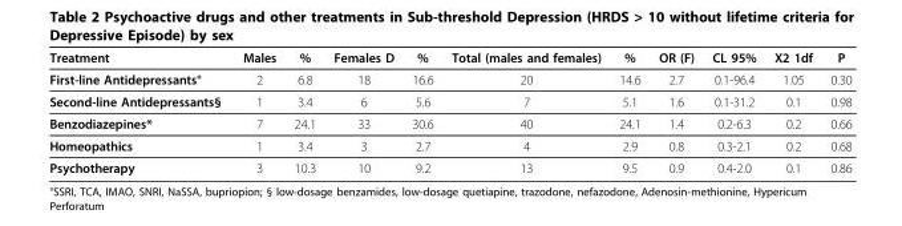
<table><thead><tr><td>Treatment</td><td>Males</td><td>%</td><td>Females D</td><td>%</td><td>Total (males and females)</td><td>%</td><td>OR (F)</td><td>CL 95%</td><td>Χ2 1df</td><td>P</td></tr></thead><tbody><tr><td>First-line Antidepressants°</td><td>2</td><td>6.8</td><td>18</td><td>16.6</td><td>20</td><td>14.6</td><td>2.7</td><td>0.1-96.4</td><td>1.05</td><td>0.30</td></tr><tr><td>Second-line Antidepressants§</td><td>1</td><td>3.4</td><td>6</td><td>5.6</td><td>7</td><td>5.1</td><td>1.6</td><td>0.1-31.2</td><td>0.1</td><td>0.98</td></tr><tr><td>Benzodiazepines*</td><td>7</td><td>24.1</td><td>33</td><td>30.6</td><td>40</td><td>24.1</td><td>1.4</td><td>0.2-6.3</td><td>0.2</td><td>0.66</td></tr><tr><td>Homeopathics</td><td>1</td><td>3.4</td><td>3</td><td>2.7</td><td>4</td><td>2.9</td><td>0.8</td><td>0.3-2.1</td><td>0.2</td><td>0.68</td></tr><tr><td>Psychotherapy</td><td>3</td><td>10.3</td><td>10</td><td>9.2</td><td>13</td><td>9.5</td><td>0.9</td><td>0.4-2.0</td><td>0.1</td><td>0.86</td></tr></tbody></table>